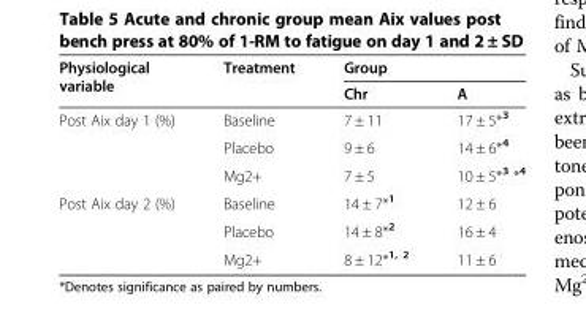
<table><thead><tr><td rowspan="2">Physiological variable</td><td rowspan="2">Treatment</td><td colspan="2">Group</td></tr><tr><td>Chr</td><td>A</td></tr></thead><tbody><tr><td rowspan="3">Post Aix day 1 (%)</td><td>Baseline</td><td>7 ± 11</td><td>17 ± 5*<sup>3</sup></td></tr><tr><td>Placebo</td><td>9 ± 6</td><td>14 ± 6*<sup>4</sup></td></tr><tr><td>Mg2+</td><td>7 ± 5</td><td>10 ± 5*<sup>3</sup> *<sup>4</sup></td></tr><tr><td rowspan="3">Post Aix day 2 (%)</td><td>Baseline</td><td>14 ± 7*<sup>1</sup></td><td>12 ± 6</td></tr><tr><td>Placebo</td><td>14 ± 8*<sup>2</sup></td><td>16 ± 4</td></tr><tr><td>Mg2+</td><td>8 ± 12*<sup>1, 2</sup></td><td>11 ± 6</td></tr></tbody></table>